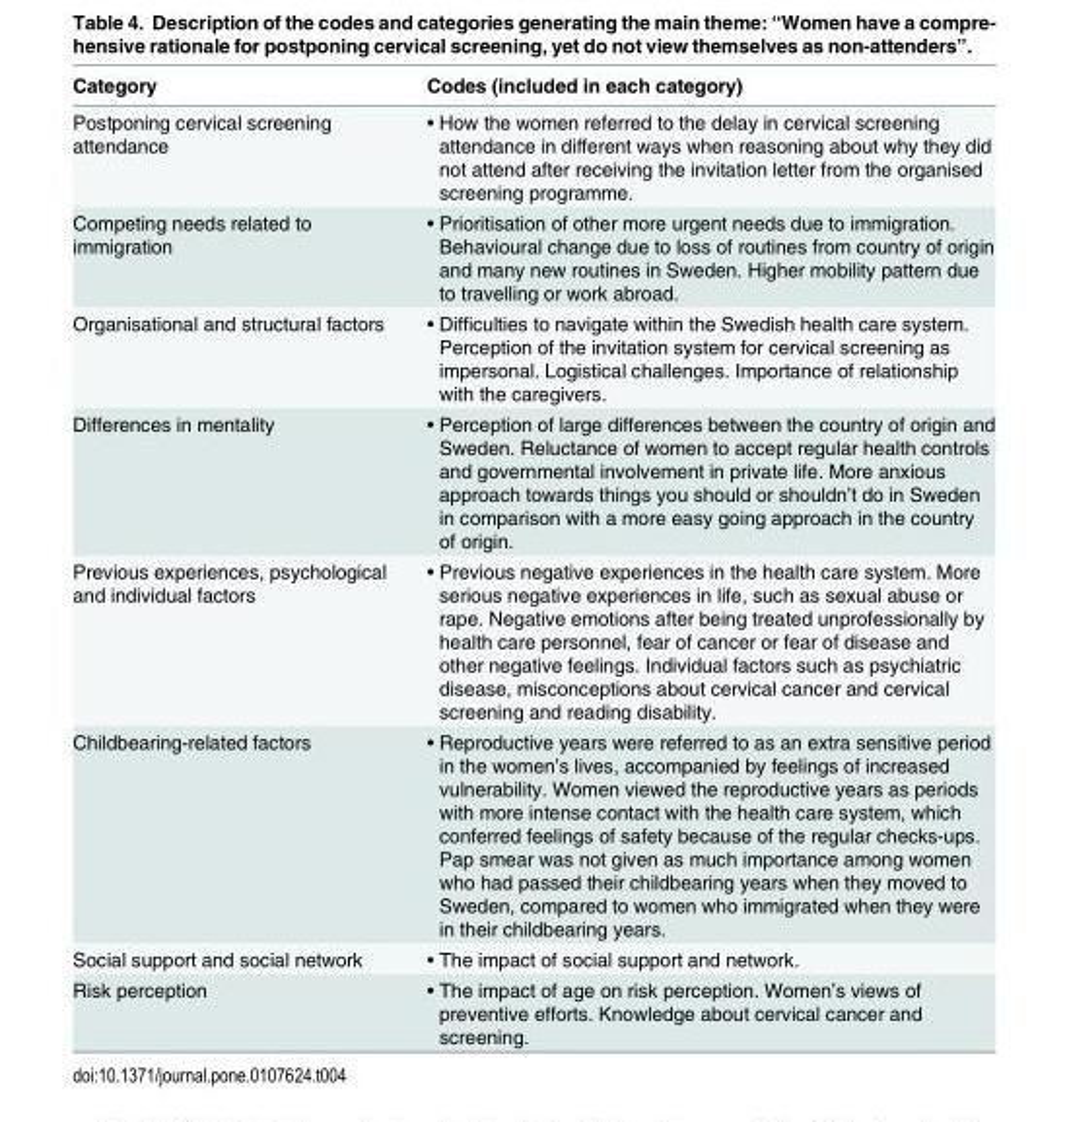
<table><thead><tr><td>Category</td><td>Codes (included in each category)</td></tr></thead><tbody><tr><td>Postponing cervical screening attendance</td><td>• How the women referred to the delay in cervical screening attendance in different ways when reasoning about why they did not attend after receiving the invitation letter from the organised screening programme.</td></tr><tr><td>Competing needs related to immigration</td><td>• Prioritisation of other more urgent needs due to immigration. Behavioural change due to loss of routines from country of origin and many new routines in Sweden. Higher mobility pattern due to travelling or work abroad.</td></tr><tr><td>Organisational and structural factors</td><td>• Difficulties to navigate within the Swedish health care system. Perception of the invitation system for cervical screening as impersonal. Logistical challenges. Importance of relationship with the caregivers.</td></tr><tr><td>Differences in mentality</td><td>• Perception of large differences between the country of origin and Sweden. Reluctance of women to accept regular health controls and governmental involvement in private life. More anxious approach towards things you should or shouldn’t do in Sweden in comparison with a more easy going approach in the country of origin.</td></tr><tr><td>Previous experiences, psychological and individual factors</td><td>• Previous negative experiences in the health care system. More serious negative experiences in life, such as sexual abuse or rape. Negative emotions after being treated unprofessionally by health care personnel, fear of cancer or fear of disease and other negative feelings. Individual factors such as psychiatric disease, misconceptions about cervical cancer and cervical screening and reading disability.</td></tr><tr><td>Childbearing-related factors</td><td>• Reproductive years were referred to as an extra sensitive period in the women’s lives, accompanied by feelings of increased vulnerability. Women viewed the reproductive years as periods with more intense contact with the health care system, which conferred feelings of safety because of the regular checks-ups. Pap smear was not given as much importance among women who had passed their childbearing years when they moved to Sweden, compared to women who immigrated when they were in their childbearing years.</td></tr><tr><td>Social support and social network</td><td>• The impact of social support and network.</td></tr><tr><td>Risk perception</td><td>• The impact of age on risk perception. Women’s views of preventive efforts. Knowledge about cervical cancer and screening.</td></tr></tbody></table>